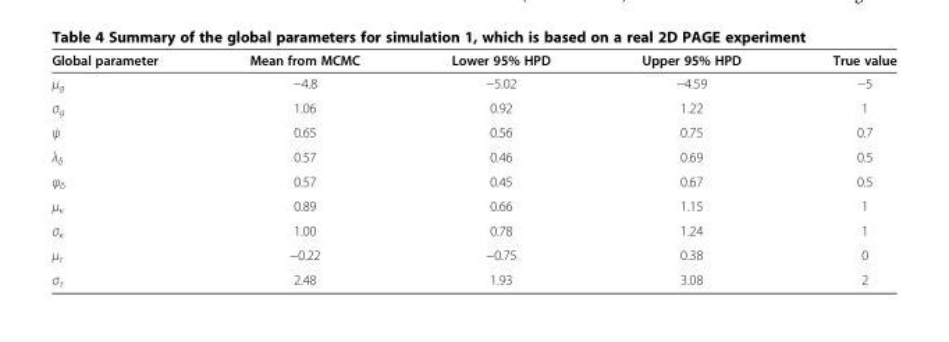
<table><thead><tr><td>Global parameter</td><td>Mean from MCMC</td><td>Lower 95% HPD</td><td>Upper 95% HPD</td><td>True value</td></tr></thead><tbody><tr><td>μ<sub>g</sub></td><td>−4.8</td><td>−5.02</td><td>−4.59</td><td>−5</td></tr><tr><td>σ<sub>g</sub></td><td>1.06</td><td>0.92</td><td>1.22</td><td>1</td></tr><tr><td>ψ</td><td>0.65</td><td>0.56</td><td>0.75</td><td>0.7</td></tr><tr><td>λ<sub>δ</sub></td><td>0.57</td><td>0.46</td><td>0.69</td><td>0.5</td></tr><tr><td>φ<sub>δ</sub></td><td>0.57</td><td>0.45</td><td>0.67</td><td>0.5</td></tr><tr><td>μ<sub>κ</sub></td><td>0.89</td><td>0.66</td><td>1.15</td><td>1</td></tr><tr><td>σ<sub>κ</sub></td><td>1.00</td><td>0.78</td><td>1.24</td><td>1</td></tr><tr><td>μ<sub>τ</sub></td><td>−0.22</td><td>−0.75</td><td>0.38</td><td>0</td></tr><tr><td>σ<sub>τ</sub></td><td>2.48</td><td>1.93</td><td>3.08</td><td>2</td></tr></tbody></table>